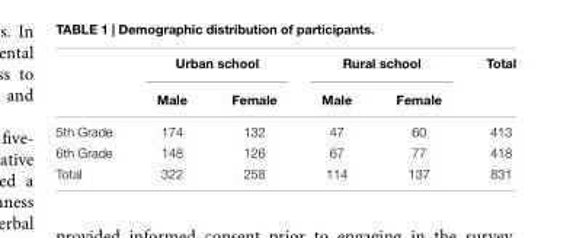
<table><thead><tr><td rowspan="2"></td><td colspan="2">Urban school</td><td colspan="2">Rural school</td><td rowspan="2">Total</td></tr><tr><td>Male</td><td>Female</td><td>Male</td><td>Female</td></tr></thead><tbody><tr><td>5th Grade</td><td>174</td><td>132</td><td>47</td><td>60</td><td>413</td></tr><tr><td>6th Grade</td><td>148</td><td>126</td><td>67</td><td>77</td><td>418</td></tr><tr><td>Total</td><td>322</td><td>258</td><td>114</td><td>137</td><td>831</td></tr></tbody></table>